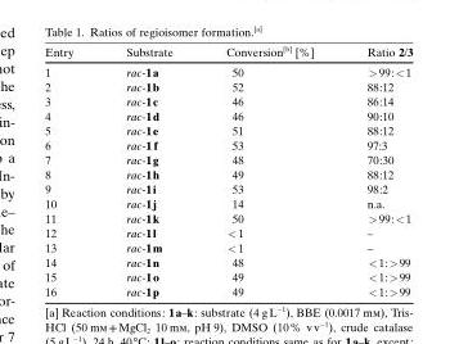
<table><thead><tr><td>Entry</td><td>Substrate</td><td>Conversion[b] [%]</td><td>Ratio 2/3</td></tr></thead><tbody><tr><td>1</td><td>rac-1a</td><td>50</td><td>&gt;99:&lt;1</td></tr><tr><td>2</td><td>rac-1b</td><td>52</td><td>88:12</td></tr><tr><td>3</td><td>rac-1c</td><td>46</td><td>86:14</td></tr><tr><td>4</td><td>rac-1d</td><td>46</td><td>90:10</td></tr><tr><td>5</td><td>rac-1e</td><td>51</td><td>88:12</td></tr><tr><td>6</td><td>rac-1 f</td><td>53</td><td>97:3</td></tr><tr><td>7</td><td>rac-1g</td><td>48</td><td>70:30</td></tr><tr><td>8</td><td>rac-1h</td><td>49</td><td>88:12</td></tr><tr><td>9</td><td>rac-1i</td><td>53</td><td>98:2</td></tr><tr><td>10</td><td>rac-1j</td><td>14</td><td>n.a.</td></tr><tr><td>11</td><td>rac-1k</td><td>50</td><td>&gt;99:&lt;1</td></tr><tr><td>12</td><td>rac-1l</td><td>&lt;1</td><td>–</td></tr><tr><td>13</td><td>rac-1m</td><td>&lt;1</td><td>–</td></tr><tr><td>14</td><td>rac-1n</td><td>48</td><td>&lt;1:&gt;99</td></tr><tr><td>15</td><td>rac-1o</td><td>49</td><td>&lt;1:&gt;99</td></tr><tr><td>16</td><td>rac-1p</td><td>49</td><td>&lt;1:&gt;99</td></tr></tbody></table>